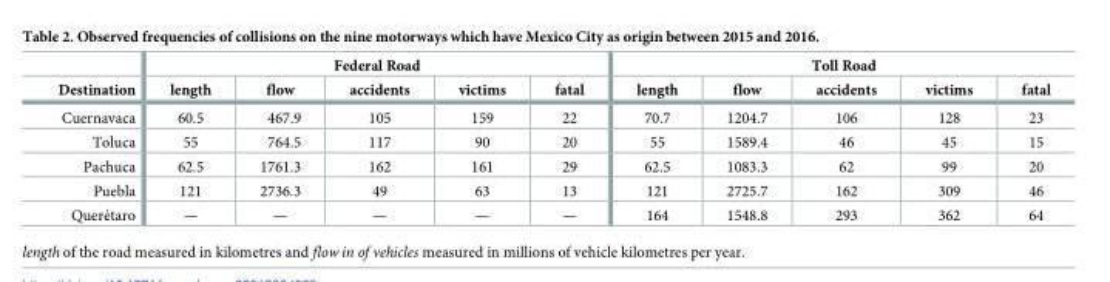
<table><thead><tr><td rowspan="2">Destination</td><td colspan="5">Federal Road</td><td colspan="5">Toll Road</td></tr><tr><td>length</td><td>flow</td><td>accidents</td><td>victims</td><td>fatal</td><td>length</td><td>flow</td><td>accidents</td><td>victims</td><td>fatal</td></tr></thead><tbody><tr><td>Cuernavaca</td><td>60.5</td><td>467.9</td><td>105</td><td>159</td><td>22</td><td>70.7</td><td>1204.7</td><td>106</td><td>128</td><td>23</td></tr><tr><td>Toluca</td><td>55</td><td>764.5</td><td>117</td><td>90</td><td>20</td><td>55</td><td>1589.4</td><td>46</td><td>45</td><td>15</td></tr><tr><td>Pachuca</td><td>62.5</td><td>1761.3</td><td>162</td><td>161</td><td>29</td><td>62.5</td><td>1083.3</td><td>62</td><td>99</td><td>20</td></tr><tr><td>Puebla</td><td>121</td><td>2736.3</td><td>49</td><td>63</td><td>13</td><td>121</td><td>2725.7</td><td>162</td><td>309</td><td>46</td></tr><tr><td>Quere´taro</td><td>—</td><td>—</td><td>—</td><td>—</td><td>—</td><td>164</td><td>1548.8</td><td>293</td><td>362</td><td>64</td></tr></tbody></table>